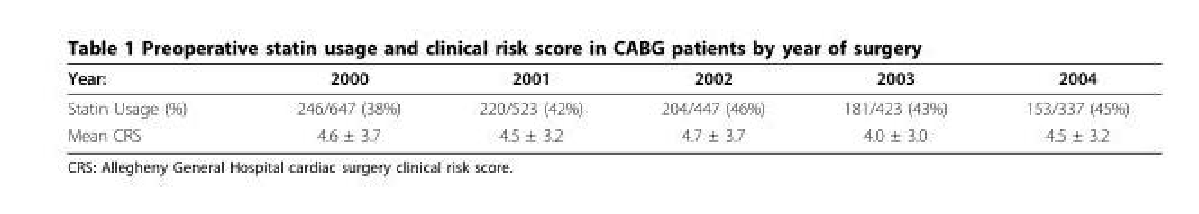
<table><thead><tr><td>Year:</td><td>2000</td><td>2001</td><td>2002</td><td>2003</td><td>2004</td></tr></thead><tbody><tr><td>Statin Usage (%)</td><td>246/647 (38%)</td><td>220/523 (42%)</td><td>204/447 (46%)</td><td>181/423 (43%)</td><td>153/337 (45%)</td></tr><tr><td>Mean CRS</td><td>4.6 ± 3.7</td><td>4.5 ± 3.2</td><td>4.7 ± 3.7</td><td>4.0 ± 3.0</td><td>4.5 ± 3.2</td></tr></tbody></table>